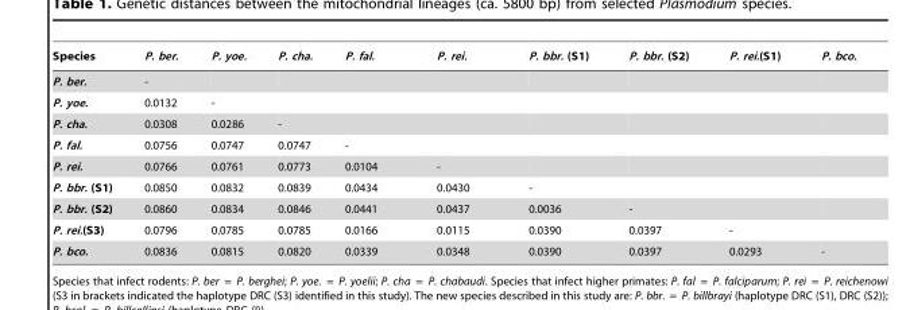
<table><thead><tr><td>Species</td><td>P. ber.</td><td>P. yoe.</td><td>P. cha.</td><td>P. fal.</td><td>P. rei.</td><td>P. bbr. (S1)</td><td>P. bbr. (S2)</td><td>P. rei.(S1)</td><td>P. bco.</td></tr></thead><tbody><tr><td>P. ber.</td><td>-</td><td></td><td></td><td></td><td></td><td></td><td></td><td></td><td></td></tr><tr><td>P. yoe.</td><td>0.0132</td><td>-</td><td></td><td></td><td></td><td></td><td></td><td></td><td></td></tr><tr><td>P. cha.</td><td>0.0308</td><td>0.0286</td><td>-</td><td></td><td></td><td></td><td></td><td></td><td></td></tr><tr><td>P. fal.</td><td>0.0756</td><td>0.0747</td><td>0.0747</td><td>-</td><td></td><td></td><td></td><td></td><td></td></tr><tr><td>P. rei.</td><td>0.0766</td><td>0.0761</td><td>0.0773</td><td>0.0104</td><td>-</td><td></td><td></td><td></td><td></td></tr><tr><td>P. bbr. (S1)</td><td>0.0850</td><td>0.0832</td><td>0.0839</td><td>0.0434</td><td>0.0430</td><td>-</td><td></td><td></td><td></td></tr><tr><td>P. bbr. (S2)</td><td>0.0860</td><td>0.0834</td><td>0.0846</td><td>0.0441</td><td>0.0437</td><td>0.0036</td><td>-</td><td></td><td></td></tr><tr><td>P. rei.(S3)</td><td>0.0796</td><td>0.0785</td><td>0.0785</td><td>0.0166</td><td>0.0115</td><td>0.0390</td><td>0.0397</td><td>-</td><td></td></tr><tr><td>P. bco.</td><td>0.0836</td><td>0.0815</td><td>0.0820</td><td>0.0339</td><td>0.0348</td><td>0.0390</td><td>0.0397</td><td>0.0293</td><td>-</td></tr></tbody></table>